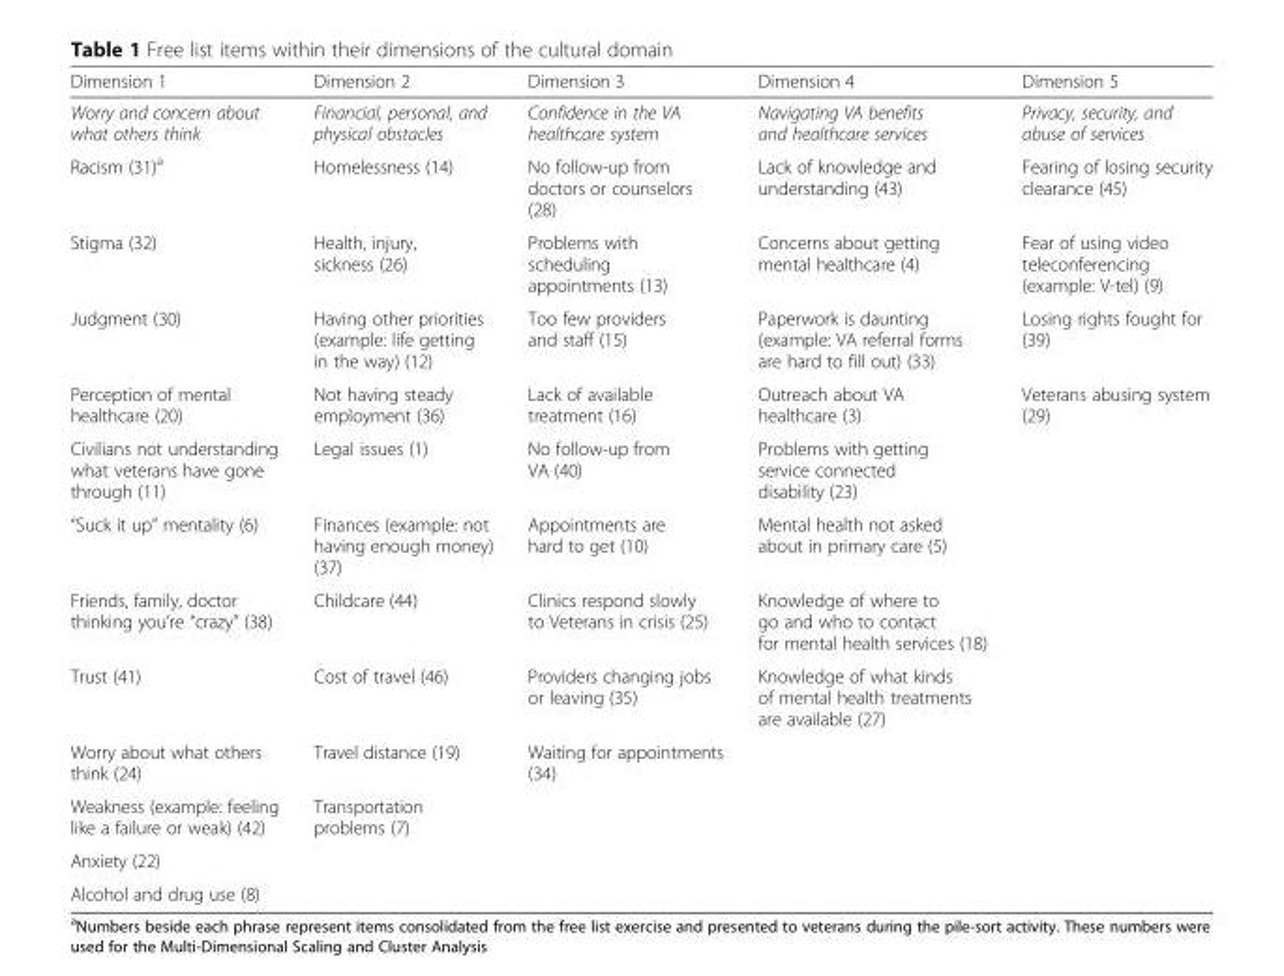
<table><thead><tr><td>Dimension 1</td><td>Dimension 2</td><td>Dimension 3</td><td>Dimension 4</td><td>Dimension 5</td></tr></thead><tbody><tr><td>Worry and concern about what others think</td><td>Financial, personal, and physical obstacles</td><td>Confidence in the VA healthcare system</td><td>Navigating VA benefits and healthcare services</td><td>Privacy, security, and abuse of services</td></tr><tr><td>Racism (31)<sup>a</sup></td><td>Homelessness (14)</td><td>No follow-up from doctors or counselors (28)</td><td>Lack of knowledge and understanding (43)</td><td>Fearing of losing security clearance (45)</td></tr><tr><td>Stigma (32)</td><td>Health, injury, sickness (26)</td><td>Problems with scheduling appointments (13)</td><td>Concerns about getting mental healthcare (4)</td><td>Fear of using video teleconferencing (example: V-tel) (9)</td></tr><tr><td>Judgment (30)</td><td>Having other priorities (example: life getting in the way) (12)</td><td>Too few providers and staff (15)</td><td>Paperwork is daunting (example: VA referral forms are hard to fill out) (33)</td><td>Losing rights fought for (39)</td></tr><tr><td>Perception of mental healthcare (20)</td><td>Not having steady employment (36)</td><td>Lack of available treatment (16)</td><td>Outreach about VA healthcare (3)</td><td>Veterans abusing system (29)</td></tr><tr><td>Civilians not understanding what veterans have gone through (11)</td><td>Legal issues (1)</td><td>No follow-up from VA (40)</td><td>Problems with getting service connected disability (23)</td><td></td></tr><tr><td>“Suck it up” mentality (6)</td><td>Finances (example: not having enough money) (37)</td><td>Appointments are hard to get (10)</td><td>Mental health not asked about in primary care (5)</td><td></td></tr><tr><td>Friends, family, doctor thinking you’re “crazy” (38)</td><td>Childcare (44)</td><td>Clinics respond slowly to Veterans in crisis (25)</td><td>Knowledge of where to go and who to contact for mental health services (18)</td><td></td></tr><tr><td>Trust (41)</td><td>Cost of travel (46)</td><td>Providers changing jobs or leaving (35)</td><td>Knowledge of what kinds of mental health treatments are available (27)</td><td></td></tr><tr><td>Worry about what others think (24)</td><td>Travel distance (19)</td><td>Waiting for appointments (34)</td><td></td><td></td></tr><tr><td>Weakness (example: feeling like a failure or weak) (42)</td><td>Transportation problems (7)</td><td></td><td></td><td></td></tr><tr><td colspan="5">Anxiety (22)</td></tr><tr><td>Alcohol and drug use (8)</td><td></td><td></td><td></td><td></td></tr></tbody></table>